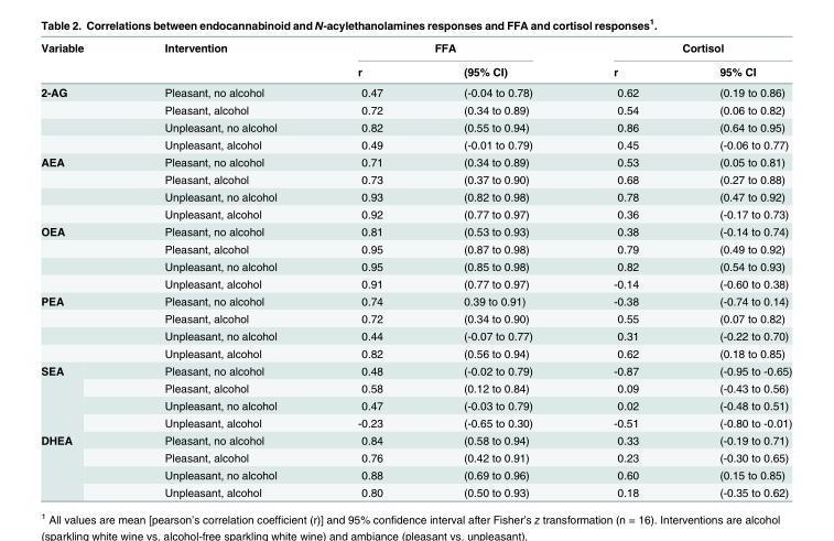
<table><thead><tr><td rowspan="2">Variable</td><td rowspan="2">Intervention</td><td colspan="2">FFA</td><td colspan="2">Cortisol</td></tr><tr><td>r</td><td>(95% CI)</td><td>r</td><td>95% CI</td></tr></thead><tbody><tr><td rowspan="4">2-AG</td><td>Pleasant, no alcohol</td><td>0.47</td><td>(-0.04 to 0.78)</td><td>0.62</td><td>(0.19 to 0.86)</td></tr><tr><td>Pleasant, alcohol</td><td>0.72</td><td>(0.34 to 0.89)</td><td>0.54</td><td>(0.06 to 0.82)</td></tr><tr><td>Unpleasant, no alcohol</td><td>0.82</td><td>(0.55 to 0.94)</td><td>0.86</td><td>(0.64 to 0.95)</td></tr><tr><td>Unpleasant, alcohol</td><td>0.49</td><td>(-0.01 to 0.79)</td><td>0.45</td><td>(-0.06 to 0.77)</td></tr><tr><td rowspan="4">AEA</td><td>Pleasant, no alcohol</td><td>0.71</td><td>(0.34 to 0.89)</td><td>0.53</td><td>(0.05 to 0.81)</td></tr><tr><td>Pleasant, alcohol</td><td>0.73</td><td>(0.37 to 0.90)</td><td>0.68</td><td>(0.27 to 0.88)</td></tr><tr><td>Unpleasant, no alcohol</td><td>0.93</td><td>(0.82 to 0.98)</td><td>0.78</td><td>(0.47 to 0.92)</td></tr><tr><td>Unpleasant, alcohol</td><td>0.92</td><td>(0.77 to 0.97)</td><td>0.36</td><td>(-0.17 to 0.73)</td></tr><tr><td rowspan="4">OEA</td><td>Pleasant, no alcohol</td><td>0.81</td><td>(0.53 to 0.93)</td><td>0.38</td><td>(-0.14 to 0.74)</td></tr><tr><td>Pleasant, alcohol</td><td>0.95</td><td>(0.87 to 0.98)</td><td>0.79</td><td>(0.49 to 0.92)</td></tr><tr><td>Unpleasant, no alcohol</td><td>0.95</td><td>(0.85 to 0.98)</td><td>0.82</td><td>(0.54 to 0.93)</td></tr><tr><td>Unpleasant, alcohol</td><td>0.91</td><td>(0.77 to 0.97)</td><td>-0.14</td><td>(-0.60 to 0.38)</td></tr><tr><td rowspan="4">PEA</td><td>Pleasant, no alcohol</td><td>0.74</td><td>0.39 to 0.91)</td><td>-0.38</td><td>(-0.74 to 0.14)</td></tr><tr><td>Pleasant, alcohol</td><td>0.72</td><td>(0.34 to 0.90)</td><td>0.55</td><td>(0.07 to 0.82)</td></tr><tr><td>Unpleasant, no alcohol</td><td>0.44</td><td>(-0.07 to 0.77)</td><td>0.31</td><td>(-0.22 to 0.70)</td></tr><tr><td>Unpleasant, alcohol</td><td>0.82</td><td>(0.56 to 0.94)</td><td>0.62</td><td>(0.18 to 0.85)</td></tr><tr><td rowspan="4">SEA</td><td>Pleasant, no alcohol</td><td>0.48</td><td>(-0.02 to 0.79)</td><td>-0.87</td><td>(-0.95 to -0.65)</td></tr><tr><td>Pleasant, alcohol</td><td>0.58</td><td>(0.12 to 0.84)</td><td>0.09</td><td>(-0.43 to 0.56)</td></tr><tr><td>Unpleasant, no alcohol</td><td>0.47</td><td>(-0.03 to 0.79)</td><td>0.02</td><td>(-0.48 to 0.51)</td></tr><tr><td>Unpleasant, alcohol</td><td>-0.23</td><td>(-0.65 to 0.30)</td><td>-0.51</td><td>(-0.80 to -0.01)</td></tr><tr><td rowspan="4">DHEA</td><td>Pleasant, no alcohol</td><td>0.84</td><td>(0.58 to 0.94)</td><td>0.33</td><td>(-0.19 to 0.71)</td></tr><tr><td>Pleasant, alcohol</td><td>0.76</td><td>(0.42 to 0.91)</td><td>0.23</td><td>(-0.30 to 0.65)</td></tr><tr><td>Unpleasant, no alcohol</td><td>0.88</td><td>(0.69 to 0.96)</td><td>0.60</td><td>(0.15 to 0.85)</td></tr><tr><td>Unpleasant, alcohol</td><td>0.80</td><td>(0.50 to 0.93)</td><td>0.18</td><td>(-0.35 to 0.62)</td></tr></tbody></table>